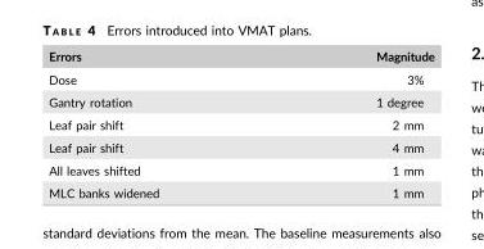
<table><thead><tr><td>Errors</td><td>Magnitude</td></tr></thead><tbody><tr><td>Dose</td><td>3%</td></tr><tr><td>Gantry rotation</td><td>1 degree</td></tr><tr><td>Leaf pair shift</td><td>2 mm</td></tr><tr><td>Leaf pair shift</td><td>4 mm</td></tr><tr><td>All leaves shifted</td><td>1 mm</td></tr><tr><td>MLC banks widened</td><td>1 mm</td></tr></tbody></table>